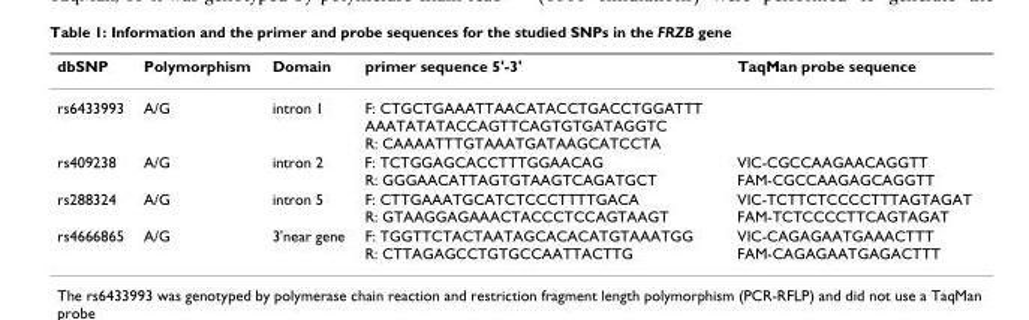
<table><thead><tr><td>dbSNP</td><td>Polymorphism</td><td>Domain</td><td>primer sequence 5&#x27;-3&#x27;</td><td>TaqMan probe sequence</td></tr></thead><tbody><tr><td>rs6433993</td><td>A/G</td><td>intron 1</td><td>F: CTGCTGAAATTAACATACCTGACCTGGATTT AAATATATACCAGTTCAGTGTGATAGGTC R: CAAAATTTGTAAATGATAAGCATCCTA</td><td></td></tr><tr><td>rs409238</td><td>A/G</td><td>intron 2</td><td>F: TCTGGAGCACCTTTGGAACAG R: GGGAACATTAGTGTAAGTCAGATGCT</td><td>VIC-CGCCAAGAACAGGTT FAM-CGCCAAGAGCAGGTT</td></tr><tr><td>rs288324</td><td>A/G</td><td>intron 5</td><td>F: CTTGAAATGCATCTCCCTTTTGACA R: GTAAGGAGAAACTACCCTCCAGTAAGT</td><td>VIC-TCTTCTCCCCTTTAGTAGAT FAM-TCTCCCCTTCAGTAGAT</td></tr><tr><td>rs4666865</td><td>A/G</td><td>3&#x27;near gene</td><td>F: TGGTTCTACTAATAGCACACATGTAAATGG R: CTTAGAGCCTGTGCCAATTACTTG</td><td>VIC-CAGAGAATGAAACTTT FAM-CAGAGAATGAGACTTT</td></tr></tbody></table>